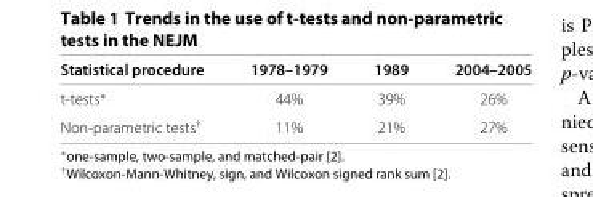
<table><thead><tr><td>Statistical procedure</td><td>1978–1979</td><td>1989</td><td>2004–2005</td></tr></thead><tbody><tr><td>t-tests∗</td><td>44%</td><td>39%</td><td>26%</td></tr><tr><td>Non-parametric tests†</td><td>11%</td><td>21%</td><td>27%</td></tr></tbody></table>